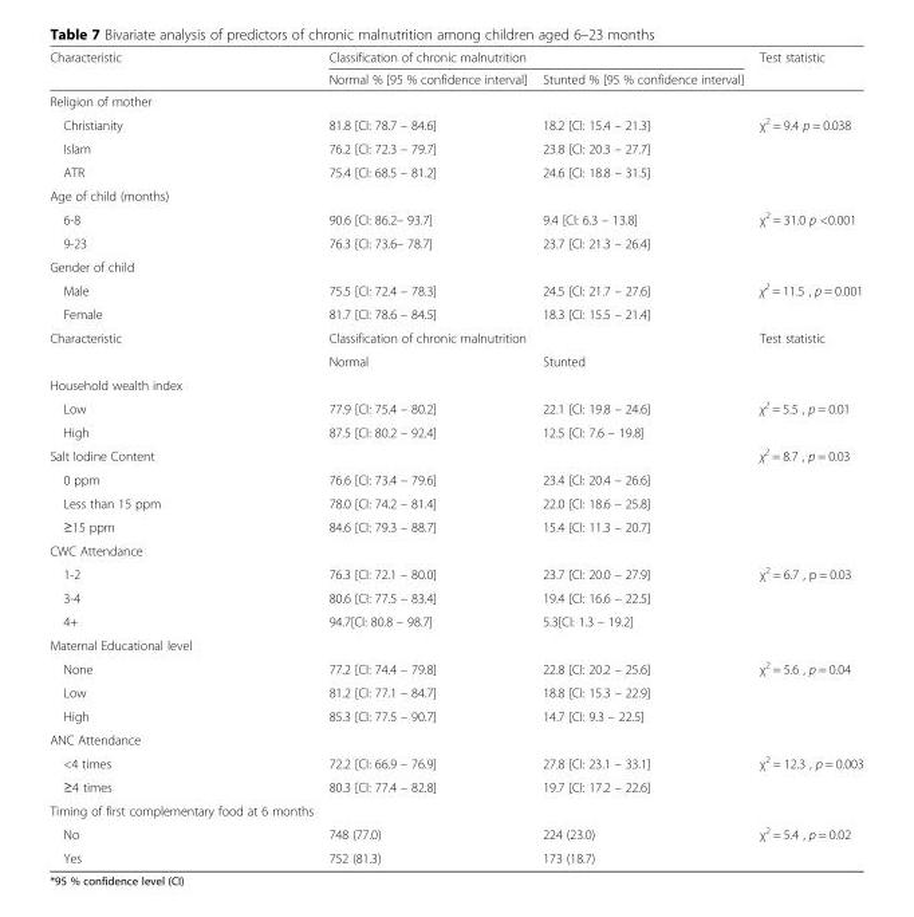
<table><thead><tr><td rowspan="2">Characteristic</td><td colspan="2">Classification of chronic malnutrition</td><td rowspan="2">Test statistic</td></tr><tr><td>Normal % [95 % confidence interval]</td><td>Stunted % [95 % confidence interval]</td></tr></thead><tbody><tr><td colspan="4">Religion of mother</td></tr><tr><td>Christianity</td><td>81.8 [CI: 78.7 – 84.6]</td><td>18.2 [CI: 15.4 – 21.3]</td><td rowspan="3">χ<sup>2</sup> = 9.4 p = 0.038</td></tr><tr><td>Islam</td><td>76.2 [CI: 72.3 – 79.7]</td><td>23.8 [CI: 20.3 – 27.7]</td></tr><tr><td>ATR</td><td>75.4 [CI: 68.5 – 81.2]</td><td>24.6 [CI: 18.8 – 31.5]</td></tr><tr><td colspan="4">Age of child (months)</td></tr><tr><td>6-8</td><td>90.6 [CI: 86.2– 93.7]</td><td>9.4 [CI: 6.3 – 13.8]</td><td rowspan="2">χ<sup>2</sup> = 31.0 p &lt;0.001</td></tr><tr><td>9-23</td><td>76.3 [CI: 73.6– 78.7]</td><td>23.7 [CI: 21.3 – 26.4]</td></tr><tr><td colspan="4">Gender of child</td></tr><tr><td>Male</td><td>75.5 [CI: 72.4 – 78.3]</td><td>24.5 [CI: 21.7 – 27.6]</td><td rowspan="2">χ<sup>2</sup> = 11.5 , p = 0.001</td></tr><tr><td>Female</td><td>81.7 [CI: 78.6 – 84.5]</td><td>18.3 [CI: 15.5 – 21.4]</td></tr><tr><td rowspan="2">Characteristic</td><td colspan="2">Classification of chronic malnutrition</td><td rowspan="2">Test statistic</td></tr><tr><td>Normal</td><td>Stunted</td></tr><tr><td colspan="4">Household wealth index</td></tr><tr><td>Low</td><td>77.9 [CI: 75.4 – 80.2]</td><td>22.1 [CI: 19.8 – 24.6]</td><td rowspan="2">χ<sup>2</sup> = 5.5 , p = 0.01</td></tr><tr><td>High</td><td>87.5 [CI: 80.2 – 92.4]</td><td>12.5 [CI: 7.6 – 19.8]</td></tr><tr><td colspan="3">Salt Iodine Content</td><td rowspan="3">χ<sup>2</sup> = 8.7 , p = 0.03</td></tr><tr><td>0 ppm</td><td>76.6 [CI: 73.4 – 79.6]</td><td>23.4 [CI: 20.4 – 26.6]</td></tr><tr><td>Less than 15 ppm</td><td>78.0 [CI: 74.2 – 81.4]</td><td>22.0 [CI: 18.6 – 25.8]</td></tr><tr><td>≥15 ppm</td><td>84.6 [CI: 79.3 – 88.7]</td><td>15.4 [CI: 11.3 – 20.7]</td><td></td></tr><tr><td colspan="4">CWC Attendance</td></tr><tr><td>1-2</td><td>76.3 [CI: 72.1 – 80.0]</td><td>23.7 [CI: 20.0 – 27.9]</td><td rowspan="3">χ<sup>2</sup> = 6.7 , p = 0.03</td></tr><tr><td>3-4</td><td>80.6 [CI: 77.5 – 83.4]</td><td>19.4 [CI: 16.6 – 22.5]</td></tr><tr><td>4+</td><td>94.7[CI: 80.8 – 98.7]</td><td>5.3[CI: 1.3 – 19.2]</td></tr><tr><td colspan="4">Maternal Educational level</td></tr><tr><td>None</td><td>77.2 [CI: 74.4 – 79.8]</td><td>22.8 [CI: 20.2 – 25.6]</td><td rowspan="3">χ<sup>2</sup> = 5.6 , p = 0.04</td></tr><tr><td>Low</td><td>81.2 [CI: 77.1 – 84.7]</td><td>18.8 [CI: 15.3 – 22.9]</td></tr><tr><td>High</td><td>85.3 [CI: 77.5 – 90.7]</td><td>14.7 [CI: 9.3 – 22.5]</td></tr><tr><td colspan="4">ANC Attendance</td></tr><tr><td>&lt;4 times</td><td>72.2 [CI: 66.9 – 76.9]</td><td>27.8 [CI: 23.1 – 33.1]</td><td rowspan="2">χ<sup>2</sup> = 12.3 , p = 0.003</td></tr><tr><td>≥4 times</td><td>80.3 [CI: 77.4 – 82.8]</td><td>19.7 [CI: 17.2 – 22.6]</td></tr><tr><td colspan="4">Timing of first complementary food at 6 months</td></tr><tr><td>No</td><td>748 (77.0)</td><td>224 (23.0)</td><td rowspan="2">χ<sup>2</sup> = 5.4 , p = 0.02</td></tr><tr><td>Yes</td><td>752 (81.3)</td><td>173 (18.7)</td></tr></tbody></table>